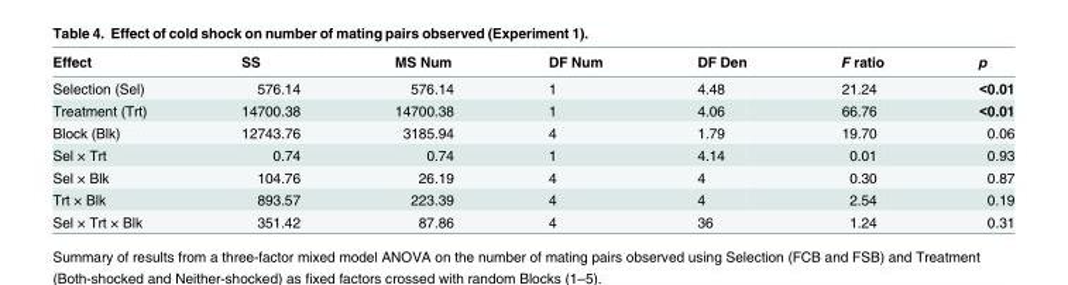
<table><thead><tr><td>Effect</td><td>SS</td><td>MS Num</td><td>DF Num</td><td>DF Den</td><td>F ratio</td><td>p</td></tr></thead><tbody><tr><td>Selection (Sel)</td><td>576.14</td><td>576.14</td><td>1</td><td>4.48</td><td>21.24</td><td>&lt;0.01</td></tr><tr><td>Treatment (Trt)</td><td>14700.38</td><td>14700.38</td><td>1</td><td>4.06</td><td>66.76</td><td>&lt;0.01</td></tr><tr><td>Block (Blk)</td><td>12743.76</td><td>3185.94</td><td>4</td><td>1.79</td><td>19.70</td><td>0.06</td></tr><tr><td>Sel × Trt</td><td>0.74</td><td>0.74</td><td>1</td><td>4.14</td><td>0.01</td><td>0.93</td></tr><tr><td>Sel × Blk</td><td>104.76</td><td>26.19</td><td>4</td><td>4</td><td>0.30</td><td>0.87</td></tr><tr><td>Trt × Blk</td><td>893.57</td><td>223.39</td><td>4</td><td>4</td><td>2.54</td><td>0.19</td></tr><tr><td>Sel × Trt × Blk</td><td>351.42</td><td>87.86</td><td>4</td><td>36</td><td>1.24</td><td>0.31</td></tr></tbody></table>